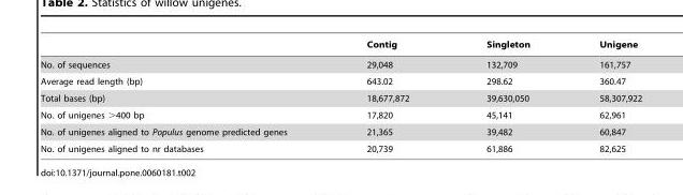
<table><thead><tr><td></td><td>Contig</td><td>Singleton</td><td>Unigene</td></tr></thead><tbody><tr><td>No. of sequences</td><td>29,048</td><td>132,709</td><td>161,757</td></tr><tr><td>Average read length (bp)</td><td>643.02</td><td>298.62</td><td>360.47</td></tr><tr><td>Total bases (bp)</td><td>18,677,872</td><td>39,630,050</td><td>58,307,922</td></tr><tr><td>No. of unigenes &gt;400 bp</td><td>17,820</td><td>45,141</td><td>62,961</td></tr><tr><td>No. of unigenes aligned to Populus genome predicted genes</td><td>21,365</td><td>39,482</td><td>60,847</td></tr><tr><td>No. of unigenes aligned to nr databases</td><td>20,739</td><td>61,886</td><td>82,625</td></tr></tbody></table>